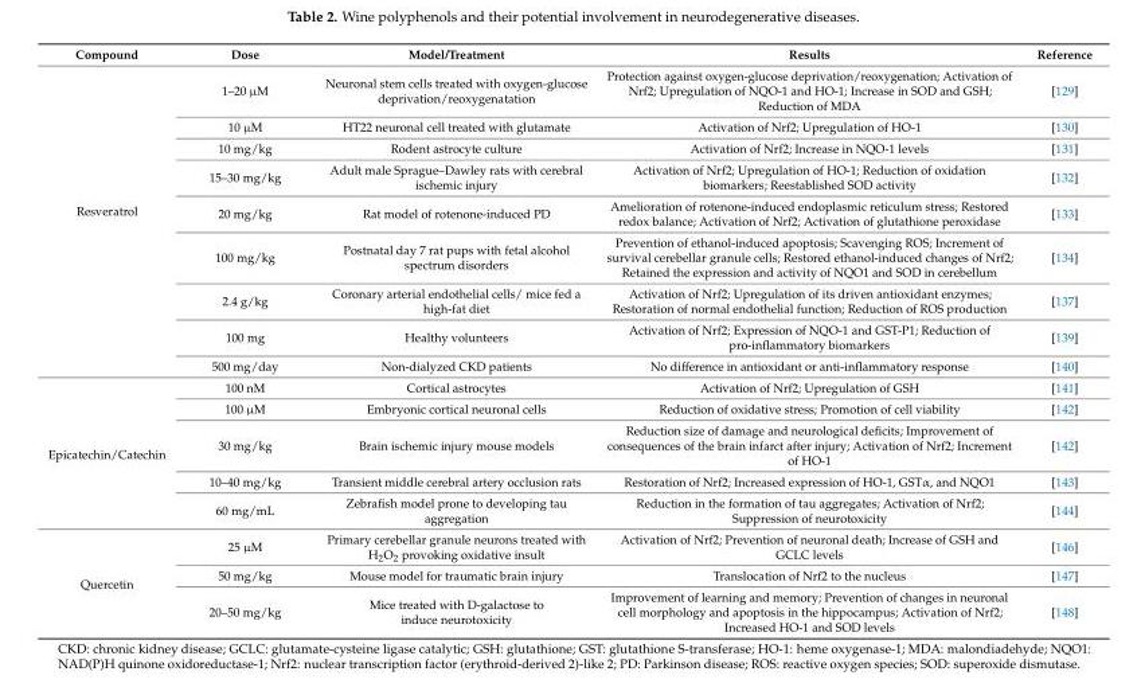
<table><thead><tr><td>Compound</td><td>Dose</td><td>Model/Treatment</td><td>Results</td><td>Reference</td></tr></thead><tbody><tr><td rowspan="9">Resveratrol</td><td>1–20 µM</td><td>Neuronal stem cells treated with oxygen-glucose deprivation/reoxygenatation</td><td>Protection against oxygen-glucose deprivation/reoxygenation; Activation of Nrf2; Upregulation of NQO-1 and HO-1; Increase in SOD and GSH; Reduction of MDA</td><td>[129]</td></tr><tr><td>10 µM</td><td>HT22 neuronal cell treated with glutamate</td><td>Activation of Nrf2; Upregulation of HO-1</td><td>[130]</td></tr><tr><td>10 mg/kg</td><td>Rodent astrocyte culture</td><td>Activation of Nrf2; Increase in NQO-1 levels</td><td>[131]</td></tr><tr><td>15–30 mg/kg</td><td>Adult male Sprague–Dawley rats with cerebral ischemic injury</td><td>Activation of Nrf2; Upregulation of HO-1; Reduction of oxidation biomarkers; Reestablished SOD activity</td><td>[132]</td></tr><tr><td>20 mg/kg</td><td>Rat model of rotenone-induced PD</td><td>Amelioration of rotenone-induced endoplasmic reticulum stress; Restored redox balance; Activation of Nrf2; Activation of glutathione peroxidase</td><td>[133]</td></tr><tr><td>100 mg/kg</td><td>Postnatal day 7 rat pups with fetal alcohol spectrum disorders</td><td>Prevention of ethanol-induced apoptosis; Scavenging ROS; Increment of survival cerebellar granule cells; Restored ethanol-induced changes of Nrf2; Retained the expression and activity of NQO1 and SOD in cerebellum</td><td>[134]</td></tr><tr><td>2.4 g/kg</td><td>Coronary arterial endothelial cells/ mice fed a high-fat diet</td><td>Activation of Nrf2; Upregulation of its driven antioxidant enzymes; Restoration of normal endothelial function; Reduction of ROS production</td><td>[137]</td></tr><tr><td>100 mg</td><td>Healthy volunteers</td><td>Activation of Nrf2; Expression of NQO-1 and GST-P1; Reduction of pro-inflammatory biomarkers</td><td>[139]</td></tr><tr><td>500 mg/day</td><td>Non-dialyzed CKD patients</td><td>No difference in antioxidant or anti-inflammatory response</td><td>[140]</td></tr><tr><td rowspan="5">Epicatechin/Catechin</td><td>100 nM</td><td>Cortical astrocytes</td><td>Activation of Nrf2; Upregulation of GSH</td><td>[141]</td></tr><tr><td>100 µM</td><td>Embryonic cortical neuronal cells</td><td>Reduction of oxidative stress; Promotion of cell viability</td><td>[142]</td></tr><tr><td>30 mg/kg</td><td>Brain ischemic injury mouse models</td><td>Reduction size of damage and neurological deficits; Improvement of consequences of the brain infarct after injury; Activation of Nrf2; Increment of HO-1</td><td>[142]</td></tr><tr><td>10–40 mg/kg</td><td>Transient middle cerebral artery occlusion rats</td><td>Restoration of Nrf2; Increased expression of HO-1, GSTα, and NQO1</td><td>[143]</td></tr><tr><td>60 mg/mL</td><td>Zebrafish model prone to developing tau aggregation</td><td>Reduction in the formation of tau aggregates; Activation of Nrf2; Suppression of neurotoxicity</td><td>[144]</td></tr><tr><td rowspan="3">Quercetin</td><td>25 µM</td><td>Primary cerebellar granule neurons treated with H<sub>2</sub>O<sub>2</sub> provoking oxidative insult</td><td>Activation of Nrf2; Prevention of neuronal death; Increase of GSH and GCLC levels</td><td>[146]</td></tr><tr><td>50 mg/kg</td><td>Mouse model for traumatic brain injury</td><td>Translocation of Nrf2 to the nucleus</td><td>[147]</td></tr><tr><td>20–50 mg/kg</td><td>Mice treated with D-galactose to induce neurotoxicity</td><td>Improvement of learning and memory; Prevention of changes in neuronal cell morphology and apoptosis in the hippocampus; Activation of Nrf2; Increased HO-1 and SOD levels</td><td>[148]</td></tr></tbody></table>